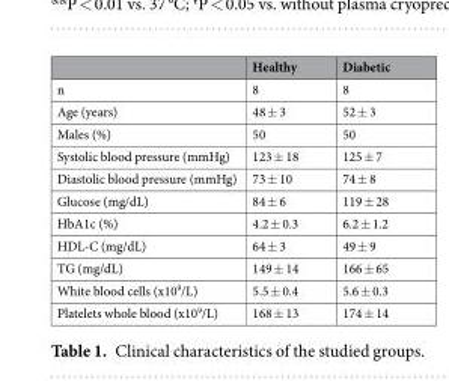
<table><thead><tr><td></td><td>Healthy</td><td>Diabetic</td></tr></thead><tbody><tr><td>n</td><td>8</td><td>8</td></tr><tr><td>Age (years)</td><td>48 ± 3</td><td>52 ± 3</td></tr><tr><td>Males (%)</td><td>50</td><td>50</td></tr><tr><td>Systolic blood pressure (mmHg)</td><td>123 ± 18</td><td>125 ± 7</td></tr><tr><td>Diastolic blood pressure (mmHg)</td><td>73 ± 10</td><td>74 ± 8</td></tr><tr><td>Glucose (mg/dL)</td><td>84 ± 6</td><td>119 ± 28</td></tr><tr><td>HbA1c (%)</td><td>4.2 ± 0.3</td><td>6.2 ± 1.2</td></tr><tr><td>HDL-C (mg/dL)</td><td>64 ± 3</td><td>49 ± 9</td></tr><tr><td>TG (mg/dL)</td><td>149 ± 14</td><td>166 ± 65</td></tr><tr><td>White blood cells (x10<sup>9</sup>/L)</td><td>5.5 ± 0.4</td><td>5.6 ± 0.3</td></tr><tr><td>Platelets whole blood (x10<sup>9</sup>/L)</td><td>168 ± 13</td><td>174 ± 14</td></tr></tbody></table>